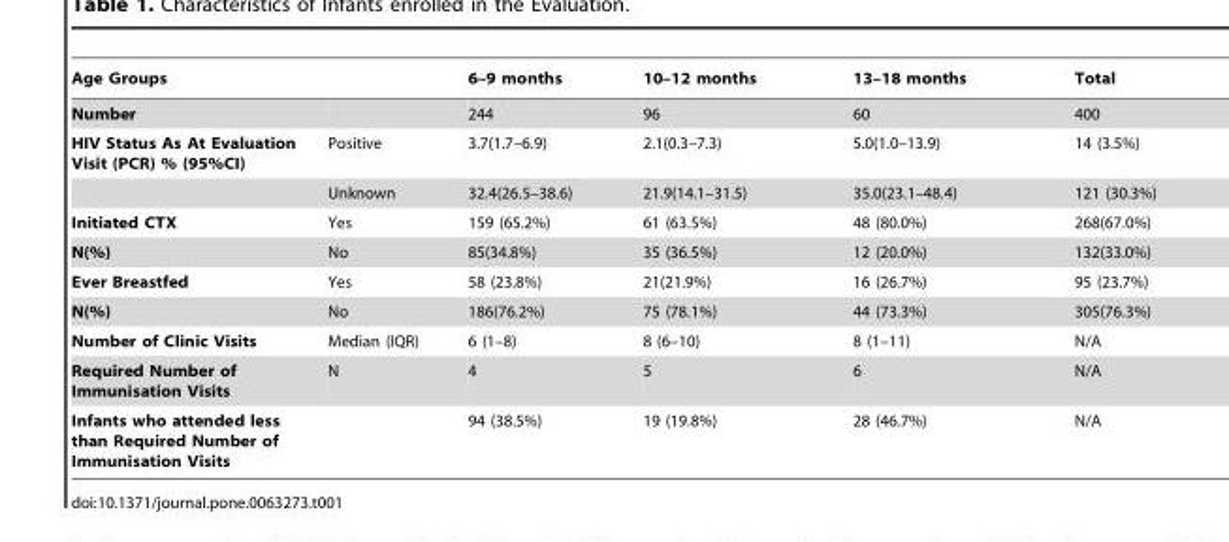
<table><thead><tr><td>Age Groups</td><td></td><td>6–9 months</td><td>10–12 months</td><td>13–18 months</td><td>Total</td></tr></thead><tbody><tr><td>Number</td><td></td><td>244</td><td>96</td><td>60</td><td>400</td></tr><tr><td rowspan="2">HIV Status As At Evaluation Visit (PCR) % (95%CI)</td><td>Positive</td><td>3.7(1.7–6.9)</td><td>2.1(0.3–7.3)</td><td>5.0(1.0–13.9)</td><td>14 (3.5%)</td></tr><tr><td>Unknown</td><td>32.4(26.5–38.6)</td><td>21.9(14.1–31.5)</td><td>35.0(23.1–48.4)</td><td>121 (30.3%)</td></tr><tr><td>Initiated CTX</td><td>Yes</td><td>159 (65.2%)</td><td>61 (63.5%)</td><td>48 (80.0%)</td><td>268(67.0%)</td></tr><tr><td>N(%)</td><td>No</td><td>85(34.8%)</td><td>35 (36.5%)</td><td>12 (20.0%)</td><td>132(33.0%)</td></tr><tr><td>Ever Breastfed</td><td>Yes</td><td>58 (23.8%)</td><td>21(21.9%)</td><td>16 (26.7%)</td><td>95 (23.7%)</td></tr><tr><td>N(%)</td><td>No</td><td>186(76.2%)</td><td>75 (78.1%)</td><td>44 (73.3%)</td><td>305(76.3%)</td></tr><tr><td>Number of Clinic Visits</td><td>Median (IQR)</td><td>6 (1–8)</td><td>8 (6–10)</td><td>8 (1–11)</td><td>N/A</td></tr><tr><td>Required Number of Immunisation Visits</td><td>N</td><td>4</td><td>5</td><td>6</td><td>N/A</td></tr><tr><td>Infants who attended less than Required Number of Immunisation Visits</td><td></td><td>94 (38.5%)</td><td>19 (19.8%)</td><td>28 (46.7%)</td><td>N/A</td></tr></tbody></table>